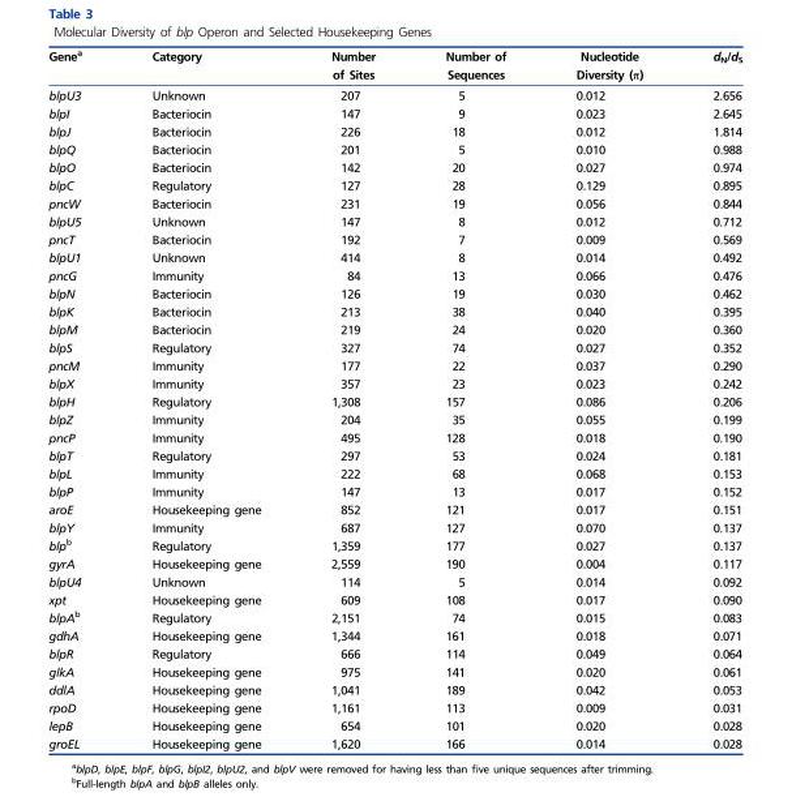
<table><thead><tr><td>Gene<sup>a</sup></td><td>Category</td><td>Number of Sites</td><td>Number of Sequences</td><td>Nucleotide Diversity (π)</td><td>d<sub>N</sub>/d<sub>S</sub></td></tr></thead><tbody><tr><td>blpU3</td><td>Unknown</td><td>207</td><td>5</td><td>0.012</td><td>2.656</td></tr><tr><td>blpI</td><td>Bacteriocin</td><td>147</td><td>9</td><td>0.023</td><td>2.645</td></tr><tr><td>blpJ</td><td>Bacteriocin</td><td>226</td><td>18</td><td>0.012</td><td>1.814</td></tr><tr><td>blpQ</td><td>Bacteriocin</td><td>201</td><td>5</td><td>0.010</td><td>0.988</td></tr><tr><td>blpO</td><td>Bacteriocin</td><td>142</td><td>20</td><td>0.027</td><td>0.974</td></tr><tr><td>blpC</td><td>Regulatory</td><td>127</td><td>28</td><td>0.129</td><td>0.895</td></tr><tr><td>pncW</td><td>Bacteriocin</td><td>231</td><td>19</td><td>0.056</td><td>0.844</td></tr><tr><td>blpU5</td><td>Unknown</td><td>147</td><td>8</td><td>0.012</td><td>0.712</td></tr><tr><td>pncT</td><td>Bacteriocin</td><td>192</td><td>7</td><td>0.009</td><td>0.569</td></tr><tr><td>blpU1</td><td>Unknown</td><td>414</td><td>8</td><td>0.014</td><td>0.492</td></tr><tr><td>pncG</td><td>Immunity</td><td>84</td><td>13</td><td>0.066</td><td>0.476</td></tr><tr><td>blpN</td><td>Bacteriocin</td><td>126</td><td>19</td><td>0.030</td><td>0.462</td></tr><tr><td>blpK</td><td>Bacteriocin</td><td>213</td><td>38</td><td>0.040</td><td>0.395</td></tr><tr><td>blpM</td><td>Bacteriocin</td><td>219</td><td>24</td><td>0.020</td><td>0.360</td></tr><tr><td>blpS</td><td>Regulatory</td><td>327</td><td>74</td><td>0.027</td><td>0.352</td></tr><tr><td>pncM</td><td>Immunity</td><td>177</td><td>22</td><td>0.037</td><td>0.290</td></tr><tr><td>blpX</td><td>Immunity</td><td>357</td><td>23</td><td>0.023</td><td>0.242</td></tr><tr><td>blpH</td><td>Regulatory</td><td>1,308</td><td>157</td><td>0.086</td><td>0.206</td></tr><tr><td>blpZ</td><td>Immunity</td><td>204</td><td>35</td><td>0.055</td><td>0.199</td></tr><tr><td>pncP</td><td>Immunity</td><td>495</td><td>128</td><td>0.018</td><td>0.190</td></tr><tr><td>blpT</td><td>Regulatory</td><td>297</td><td>53</td><td>0.024</td><td>0.181</td></tr><tr><td>blpL</td><td>Immunity</td><td>222</td><td>68</td><td>0.068</td><td>0.153</td></tr><tr><td>blpP</td><td>Immunity</td><td>147</td><td>13</td><td>0.017</td><td>0.152</td></tr><tr><td>aroE</td><td>Housekeeping gene</td><td>852</td><td>121</td><td>0.017</td><td>0.151</td></tr><tr><td>blpY</td><td>Immunity</td><td>687</td><td>127</td><td>0.070</td><td>0.137</td></tr><tr><td>blp<sup>b</sup></td><td>Regulatory</td><td>1,359</td><td>177</td><td>0.027</td><td>0.137</td></tr><tr><td>gyrA</td><td>Housekeeping gene</td><td>2,559</td><td>190</td><td>0.004</td><td>0.117</td></tr><tr><td>blpU4</td><td>Unknown</td><td>114</td><td>5</td><td>0.014</td><td>0.092</td></tr><tr><td>xpt</td><td>Housekeeping gene</td><td>609</td><td>108</td><td>0.017</td><td>0.090</td></tr><tr><td>blpA<sup>b</sup></td><td>Regulatory</td><td>2,151</td><td>74</td><td>0.015</td><td>0.083</td></tr><tr><td>gdhA</td><td>Housekeeping gene</td><td>1,344</td><td>161</td><td>0.018</td><td>0.071</td></tr><tr><td>blpR</td><td>Regulatory</td><td>666</td><td>114</td><td>0.049</td><td>0.064</td></tr><tr><td>glkA</td><td>Housekeeping gene</td><td>975</td><td>141</td><td>0.020</td><td>0.061</td></tr><tr><td>ddlA</td><td>Housekeeping gene</td><td>1,041</td><td>189</td><td>0.042</td><td>0.053</td></tr><tr><td>rpoD</td><td>Housekeeping gene</td><td>1,161</td><td>113</td><td>0.009</td><td>0.031</td></tr><tr><td>lepB</td><td>Housekeeping gene</td><td>654</td><td>101</td><td>0.020</td><td>0.028</td></tr><tr><td>groEL</td><td>Housekeeping gene</td><td>1,620</td><td>166</td><td>0.014</td><td>0.028</td></tr></tbody></table>